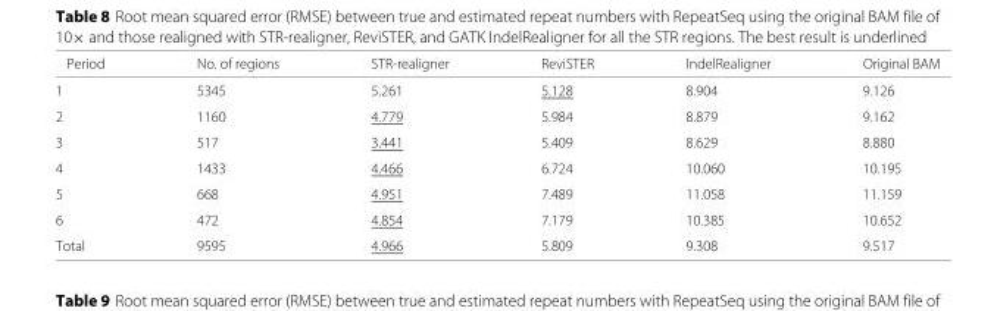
<table><thead><tr><td>Period</td><td>No. of regions</td><td>STR-realigner</td><td>ReviSTER</td><td>IndelRealigner</td><td>Original BAM</td></tr></thead><tbody><tr><td>1</td><td>5345</td><td>5.261</td><td>5.128</td><td>8.904</td><td>9.126</td></tr><tr><td>2</td><td>1160</td><td>4.779</td><td>5.984</td><td>8.879</td><td>9.162</td></tr><tr><td>3</td><td>517</td><td>3.441</td><td>5.409</td><td>8.629</td><td>8.880</td></tr><tr><td>4</td><td>1433</td><td>4.466</td><td>6.724</td><td>10.060</td><td>10.195</td></tr><tr><td>5</td><td>668</td><td>4.951</td><td>7.489</td><td>11.058</td><td>11.159</td></tr><tr><td>6</td><td>472</td><td>4.854</td><td>7.179</td><td>10.385</td><td>10.652</td></tr><tr><td>Total</td><td>9595</td><td>4.966</td><td>5.809</td><td>9.308</td><td>9.517</td></tr></tbody></table>